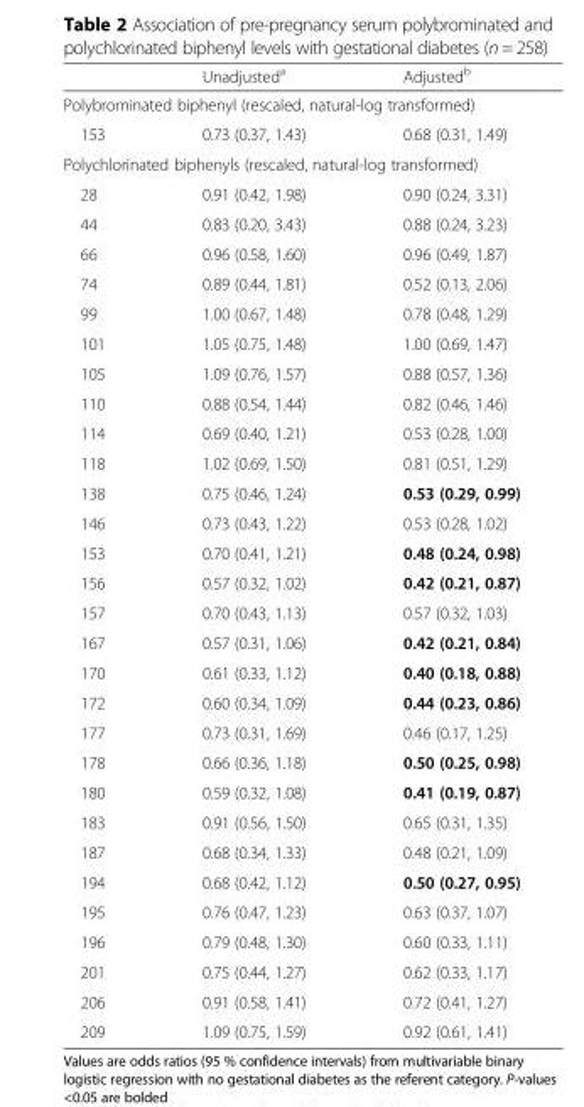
<table><thead><tr><td></td><td>Unadjusted<sup>a</sup></td><td>Adjusted<sup>b</sup></td></tr></thead><tbody><tr><td colspan="3">Polybrominated biphenyl (rescaled, natural-log transformed)</td></tr><tr><td>153</td><td>0.73 (0.37, 1.43)</td><td>0.68 (0.31, 1.49)</td></tr><tr><td colspan="3">Polychlorinated biphenyls (rescaled, natural-log transformed)</td></tr><tr><td>28</td><td>0.91 (0.42, 1.98)</td><td>0.90 (0.24, 3.31)</td></tr><tr><td>44</td><td>0.83 (0.20, 3.43)</td><td>0.88 (0.24, 3.23)</td></tr><tr><td>66</td><td>0.96 (0.58, 1.60)</td><td>0.96 (0.49, 1.87)</td></tr><tr><td>74</td><td>0.89 (0.44, 1.81)</td><td>0.52 (0.13, 2.06)</td></tr><tr><td>99</td><td>1.00 (0.67, 1.48)</td><td>0.78 (0.48, 1.29)</td></tr><tr><td>101</td><td>1.05 (0.75, 1.48)</td><td>1.00 (0.69, 1.47)</td></tr><tr><td>105</td><td>1.09 (0.76, 1.57)</td><td>0.88 (0.57, 1.36)</td></tr><tr><td>110</td><td>0.88 (0.54, 1.44)</td><td>0.82 (0.46, 1.46)</td></tr><tr><td>114</td><td>0.69 (0.40, 1.21)</td><td>0.53 (0.28, 1.00)</td></tr><tr><td>118</td><td>1.02 (0.69, 1.50)</td><td>0.81 (0.51, 1.29)</td></tr><tr><td>138</td><td>0.75 (0.46, 1.24)</td><td>0.53 (0.29, 0.99)</td></tr><tr><td>146</td><td>0.73 (0.43, 1.22)</td><td>0.53 (0.28, 1.02)</td></tr><tr><td>153</td><td>0.70 (0.41, 1.21)</td><td>0.48 (0.24, 0.98)</td></tr><tr><td>156</td><td>0.57 (0.32, 1.02)</td><td>0.42 (0.21, 0.87)</td></tr><tr><td>157</td><td>0.70 (0.43, 1.13)</td><td>0.57 (0.32, 1.03)</td></tr><tr><td>167</td><td>0.57 (0.31, 1.06)</td><td>0.42 (0.21, 0.84)</td></tr><tr><td>170</td><td>0.61 (0.33, 1.12)</td><td>0.40 (0.18, 0.88)</td></tr><tr><td>172</td><td>0.60 (0.34, 1.09)</td><td>0.44 (0.23, 0.86)</td></tr><tr><td>177</td><td>0.73 (0.31, 1.69)</td><td>0.46 (0.17, 1.25)</td></tr><tr><td>178</td><td>0.66 (0.36, 1.18)</td><td>0.50 (0.25, 0.98)</td></tr><tr><td>180</td><td>0.59 (0.32, 1.08)</td><td>0.41 (0.19, 0.87)</td></tr><tr><td>183</td><td>0.91 (0.56, 1.50)</td><td>0.65 (0.31, 1.35)</td></tr><tr><td>187</td><td>0.68 (0.34, 1.33)</td><td>0.48 (0.21, 1.09)</td></tr><tr><td>194</td><td>0.68 (0.42, 1.12)</td><td>0.50 (0.27, 0.95)</td></tr><tr><td>195</td><td>0.76 (0.47, 1.23)</td><td>0.63 (0.37, 1.07)</td></tr><tr><td>196</td><td>0.79 (0.48, 1.30)</td><td>0.60 (0.33, 1.11)</td></tr><tr><td>201</td><td>0.75 (0.44, 1.27)</td><td>0.62 (0.33, 1.17)</td></tr><tr><td>206</td><td>0.91 (0.58, 1.41)</td><td>0.72 (0.41, 1.27)</td></tr><tr><td>209</td><td>1.09 (0.75, 1.59)</td><td>0.92 (0.61, 1.41)</td></tr></tbody></table>